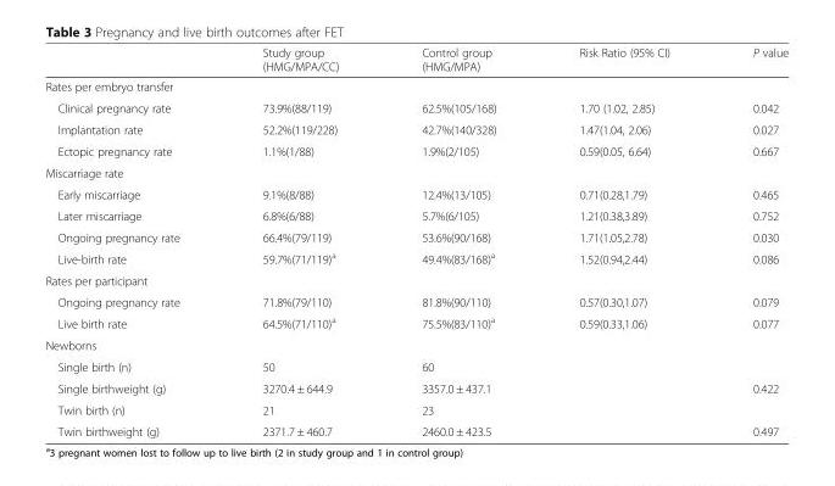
<table><thead><tr><td></td><td>Study group (HMG/MPA/CC)</td><td>Control group (HMG/MPA)</td><td>Risk Ratio (95% CI)</td><td>P value</td></tr></thead><tbody><tr><td colspan="5">Rates per embryo transfer</td></tr><tr><td>Clinical pregnancy rate</td><td>73.9%(88/119)</td><td>62.5%(105/168)</td><td>1.70 (1.02, 2.85)</td><td>0.042</td></tr><tr><td>Implantation rate</td><td>52.2%(119/228)</td><td>42.7%(140/328)</td><td>1.47(1.04, 2.06)</td><td>0.027</td></tr><tr><td>Ectopic pregnancy rate</td><td>1.1%(1/88)</td><td>1.9%(2/105)</td><td>0.59(0.05, 6.64)</td><td>0.667</td></tr><tr><td colspan="5">Miscarriage rate</td></tr><tr><td>Early miscarriage</td><td>9.1%(8/88)</td><td>12.4%(13/105)</td><td>0.71(0.28,1.79)</td><td>0.465</td></tr><tr><td>Later miscarriage</td><td>6.8%(6/88)</td><td>5.7%(6/105)</td><td>1.21(0.38,3.89)</td><td>0.752</td></tr><tr><td>Ongoing pregnancy rate</td><td>66.4%(79/119)</td><td>53.6%(90/168)</td><td>1.71(1.05,2.78)</td><td>0.030</td></tr><tr><td>Live-birth rate</td><td>59.7%(71/119)<sup>a</sup></td><td>49.4%(83/168)<sup>a</sup></td><td>1.52(0.94,2.44)</td><td>0.086</td></tr><tr><td colspan="5">Rates per participant</td></tr><tr><td>Ongoing pregnancy rate</td><td>71.8%(79/110)</td><td>81.8%(90/110)</td><td>0.57(0.30,1.07)</td><td>0.079</td></tr><tr><td>Live birth rate</td><td>64.5%(71/110)<sup>a</sup></td><td>75.5%(83/110)<sup>a</sup></td><td>0.59(0.33,1.06)</td><td>0.077</td></tr><tr><td colspan="5">Newborns</td></tr><tr><td>Single birth (n)</td><td>50</td><td>60</td><td></td><td></td></tr><tr><td>Single birthweight (g)</td><td>3270.4 ± 644.9</td><td>3357.0 ± 437.1</td><td></td><td>0.422</td></tr><tr><td>Twin birth (n)</td><td>21</td><td>23</td><td></td><td></td></tr><tr><td>Twin birthweight (g)</td><td>2371.7 ± 460.7</td><td>2460.0 ± 423.5</td><td></td><td>0.497</td></tr></tbody></table>